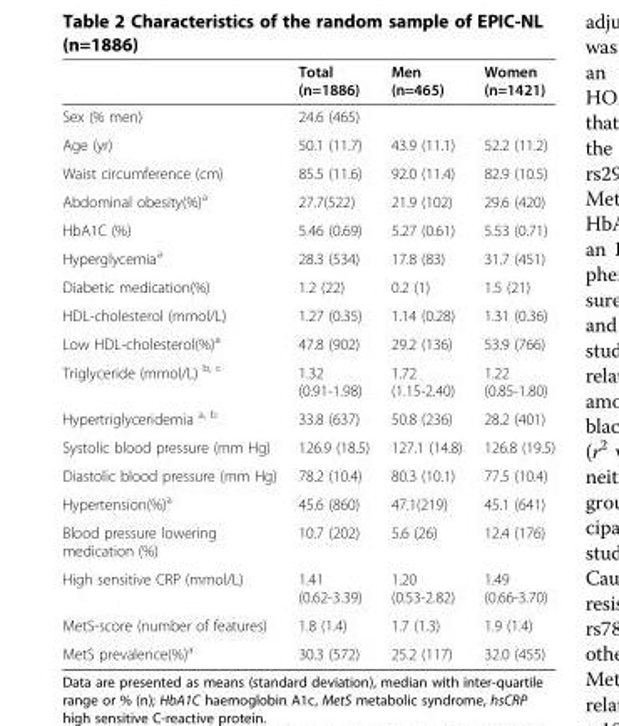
<table><thead><tr><td></td><td>Total (n=1886)</td><td>Men (n=465)</td><td>Women (n=1421)</td></tr></thead><tbody><tr><td>Sex (% men)</td><td>24.6 (465)</td><td></td><td></td></tr><tr><td>Age (yr)</td><td>50.1 (11.7)</td><td>43.9 (11.1)</td><td>52.2 (11.2)</td></tr><tr><td>Waist circumference (cm)</td><td>85.5 (11.6)</td><td>92.0 (11.4)</td><td>82.9 (10.5)</td></tr><tr><td>Abdominal obesity(%)<sup>a</sup></td><td>27.7(522)</td><td>21.9 (102)</td><td>29.6 (420)</td></tr><tr><td>HbA1C (%)</td><td>5.46 (0.69)</td><td>5.27 (0.61)</td><td>5.53 (0.71)</td></tr><tr><td>Hyperglycemia<sup>a</sup></td><td>28.3 (534)</td><td>17.8 (83)</td><td>31.7 (451)</td></tr><tr><td>Diabetic medication(%)</td><td>1.2 (22)</td><td>0.2 (1)</td><td>1.5 (21)</td></tr><tr><td>HDL-cholesterol (mmol/L)</td><td>1.27 (0.35)</td><td>1.14 (0.28)</td><td>1.31 (0.36)</td></tr><tr><td>Low HDL-cholesterol(%)<sup>a</sup></td><td>47.8 (902)</td><td>29.2 (136)</td><td>53.9 (766)</td></tr><tr><td>Triglyceride (mmol/L) <sup>b, c</sup></td><td>1.32 (0.91-1.98)</td><td>1.72 (1.15-2.40)</td><td>1.22 (0.85-1.80)</td></tr><tr><td>Hypertriglyceridemia <sup>a, b</sup></td><td>33.8 (637)</td><td>50.8 (236)</td><td>28.2 (401)</td></tr><tr><td>Systolic blood pressure (mm Hg)</td><td>126.9 (18.5)</td><td>127.1 (14.8)</td><td>126.8 (19.5)</td></tr><tr><td>Diastolic blood pressure (mm Hg)</td><td>78.2 (10.4)</td><td>80.3 (10.1)</td><td>77.5 (10.4)</td></tr><tr><td>Hypertension(%)<sup>a</sup></td><td>45.6 (860)</td><td>47.1(219)</td><td>45.1 (641)</td></tr><tr><td>Blood pressure lowering medication (%)</td><td>10.7 (202)</td><td>5.6 (26)</td><td>12.4 (176)</td></tr><tr><td>High sensitive CRP (mmol/L)</td><td>1.41 (0.62-3.39)</td><td>1.20 (0.53-2.82)</td><td>1.49 (0.66-3.70)</td></tr><tr><td>MetS-score (number of features)</td><td>1.8 (1.4)</td><td>1.7 (1.3)</td><td>1.9 (1.4)</td></tr><tr><td>MetS prevalence(%)<sup>a</sup></td><td>30.3 (572)</td><td>25.2 (117)</td><td>32.0 (455)</td></tr></tbody></table>